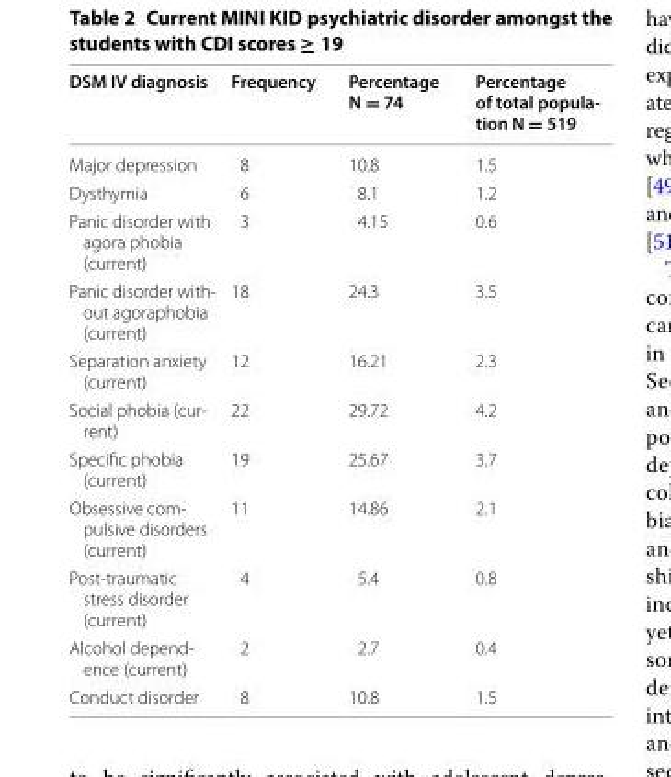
<table><thead><tr><td>DSM IV diagnosis</td><td>Frequency</td><td>Percentage N = 74</td><td>Percentage of total popula- tion N = 519</td></tr></thead><tbody><tr><td>Major depression</td><td>8</td><td>10.8</td><td>1.5</td></tr><tr><td>Dysthymia</td><td>6</td><td>8.1</td><td>1.2</td></tr><tr><td>Panic disorder with agora phobia (current)</td><td>3</td><td>4.15</td><td>0.6</td></tr><tr><td>Panic disorder with‑ out agoraphobia (current)</td><td>18</td><td>24.3</td><td>3.5</td></tr><tr><td>Separation anxiety (current)</td><td>12</td><td>16.21</td><td>2.3</td></tr><tr><td>Social phobia (cur‑ rent)</td><td>22</td><td>29.72</td><td>4.2</td></tr><tr><td>Specific phobia (current)</td><td>19</td><td>25.67</td><td>3.7</td></tr><tr><td>Obsessive com‑ pulsive disorders (current)</td><td>11</td><td>14.86</td><td>2.1</td></tr><tr><td>Post‑traumatic stress disorder (current)</td><td>4</td><td>5.4</td><td>0.8</td></tr><tr><td>Alcohol depend‑ ence (current)</td><td>2</td><td>2.7</td><td>0.4</td></tr><tr><td>Conduct disorder</td><td>8</td><td>10.8</td><td>1.5</td></tr></tbody></table>